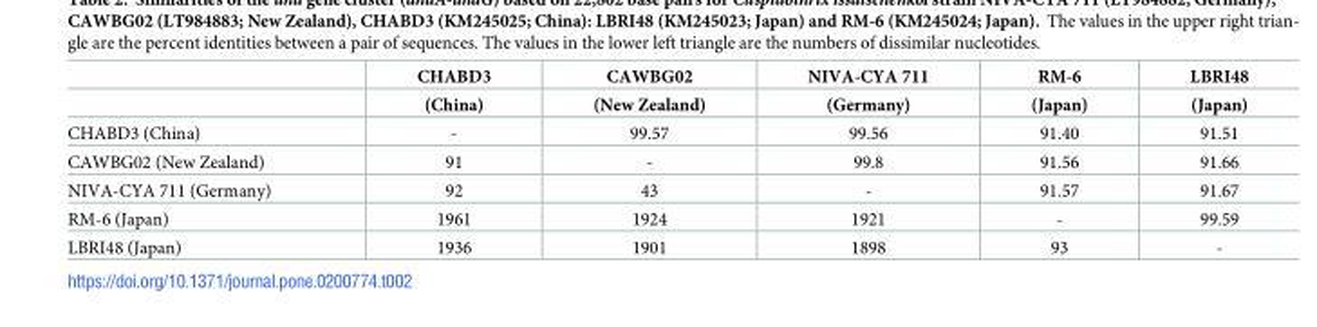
<table><thead><tr><td rowspan="2"></td><td rowspan="2">CHABD3 (China)</td><td rowspan="2">CAWBG02 (New Zealand)</td><td rowspan="2">NIVA-CYA 711 (Germany)</td><td rowspan="2">RM-6 (Japan)</td><td rowspan="2">LBRI48 (Japan)</td></tr><tr></tr></thead><tbody><tr><td>CHABD3 (China)</td><td>-</td><td>99.57</td><td>99.56</td><td>91.40</td><td>91.51</td></tr><tr><td>CAWBG02 (New Zealand)</td><td>91</td><td>-</td><td>99.8</td><td>91.56</td><td>91.66</td></tr><tr><td>NIVA-CYA 711 (Germany)</td><td>92</td><td>43</td><td>-</td><td>91.57</td><td>91.67</td></tr><tr><td>RM-6 (Japan)</td><td>1961</td><td>1924</td><td>1921</td><td>-</td><td>99.59</td></tr><tr><td>LBRI48 (Japan)</td><td>1936</td><td>1901</td><td>1898</td><td>93</td><td>-</td></tr></tbody></table>